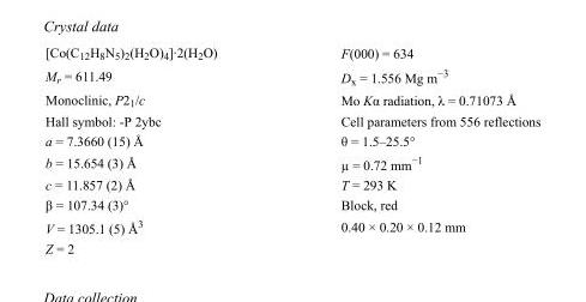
<table><tbody><tr><td>[Co(C<sub>12</sub>H<sub>8</sub>N<sub>5</sub>)<sub>2</sub>(H<sub>2</sub>O)<sub>4</sub>]·2(H<sub>2</sub>O)</td><td>F(000) = 634</td></tr><tr><td>M<sub>r</sub> = 611.49</td><td>D<sub>x</sub> = 1.556 Mg m<sup>−3</sup></td></tr><tr><td>Monoclinic, P2<sub>1</sub>/c</td><td>Mo Kα radiation, λ = 0.71073 Å</td></tr><tr><td>Hall symbol: -P 2ybc</td><td>Cell parameters from 556 reflections</td></tr><tr><td>a = 7.3660 (15) Å</td><td>θ = 1.5–25.5°</td></tr><tr><td>b = 15.654 (3) Å</td><td>µ = 0.72 mm<sup>−1</sup></td></tr><tr><td>c = 11.857 (2) Å</td><td>T = 293 K</td></tr><tr><td>β = 107.34 (3)°</td><td>Block, red</td></tr><tr><td>V = 1305.1 (5) Å<sup>3</sup></td><td>0.40 × 0.20 × 0.12 mm</td></tr><tr><td>Z = 2</td><td></td></tr></tbody></table>